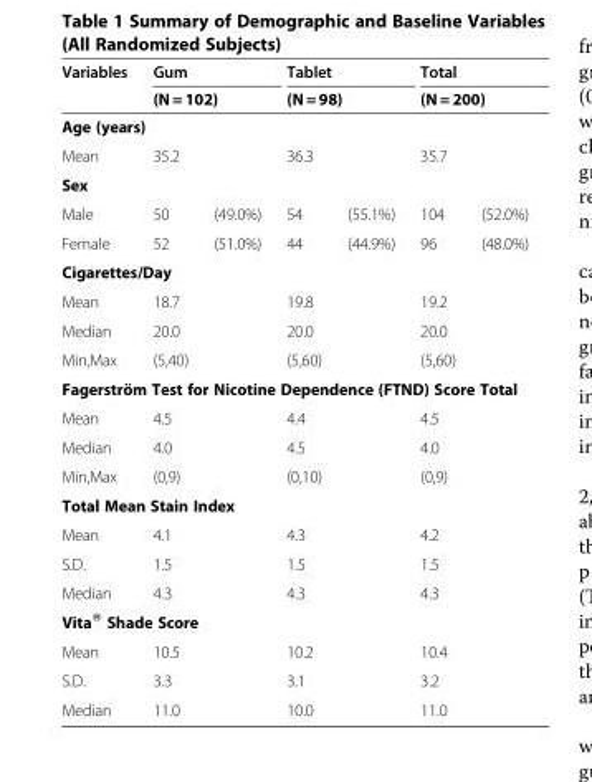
<table><thead><tr><td rowspan="2">Variables</td><td rowspan="2" colspan="2">Gum (N = 102)</td><td rowspan="2" colspan="2">Tablet (N = 98)</td><td rowspan="2" colspan="2">Total (N = 200)</td></tr><tr></tr><tr><td colspan="7">Age (years)</td></tr><tr><td>Mean</td><td>35.2</td><td></td><td>36.3</td><td></td><td>35.7</td><td></td></tr></thead><tbody><tr><td colspan="7">Sex</td></tr><tr><td>Male</td><td>50</td><td>(49.0%)</td><td>54</td><td>(55.1%)</td><td>104</td><td>(52.0%)</td></tr><tr><td>Female</td><td>52</td><td>(51.0%)</td><td>44</td><td>(44.9%)</td><td>96</td><td>(48.0%)</td></tr><tr><td colspan="7">Cigarettes/Day</td></tr><tr><td>Mean</td><td>18.7</td><td></td><td>19.8</td><td></td><td>19.2</td><td></td></tr><tr><td>Median</td><td>20.0</td><td></td><td>20.0</td><td></td><td>20.0</td><td></td></tr><tr><td>Min,Max</td><td>(5,40)</td><td></td><td>(5,60)</td><td></td><td>(5,60)</td><td></td></tr><tr><td colspan="7">Fagerström Test for Nicotine Dependence (FTND) Score Total</td></tr><tr><td>Mean</td><td>4.5</td><td></td><td>4.4</td><td></td><td>4.5</td><td></td></tr><tr><td>Median</td><td>4.0</td><td></td><td>4.5</td><td></td><td>4.0</td><td></td></tr><tr><td>Min,Max</td><td>(0,9)</td><td></td><td>(0,10)</td><td></td><td>(0,9)</td><td></td></tr><tr><td colspan="7">Total Mean Stain Index</td></tr><tr><td>Mean</td><td>4.1</td><td></td><td>4.3</td><td></td><td>4.2</td><td></td></tr><tr><td>S.D.</td><td>1.5</td><td></td><td>1.5</td><td></td><td>1.5</td><td></td></tr><tr><td>Median</td><td>4.3</td><td></td><td>4.3</td><td></td><td>4.3</td><td></td></tr><tr><td colspan="7">Vita® Shade Score</td></tr><tr><td>Mean</td><td>10.5</td><td></td><td>10.2</td><td></td><td>10.4</td><td></td></tr><tr><td>S.D.</td><td>3.3</td><td></td><td>3.1</td><td></td><td>3.2</td><td></td></tr><tr><td>Median</td><td>11.0</td><td></td><td>10.0</td><td></td><td>11.0</td><td></td></tr></tbody></table>